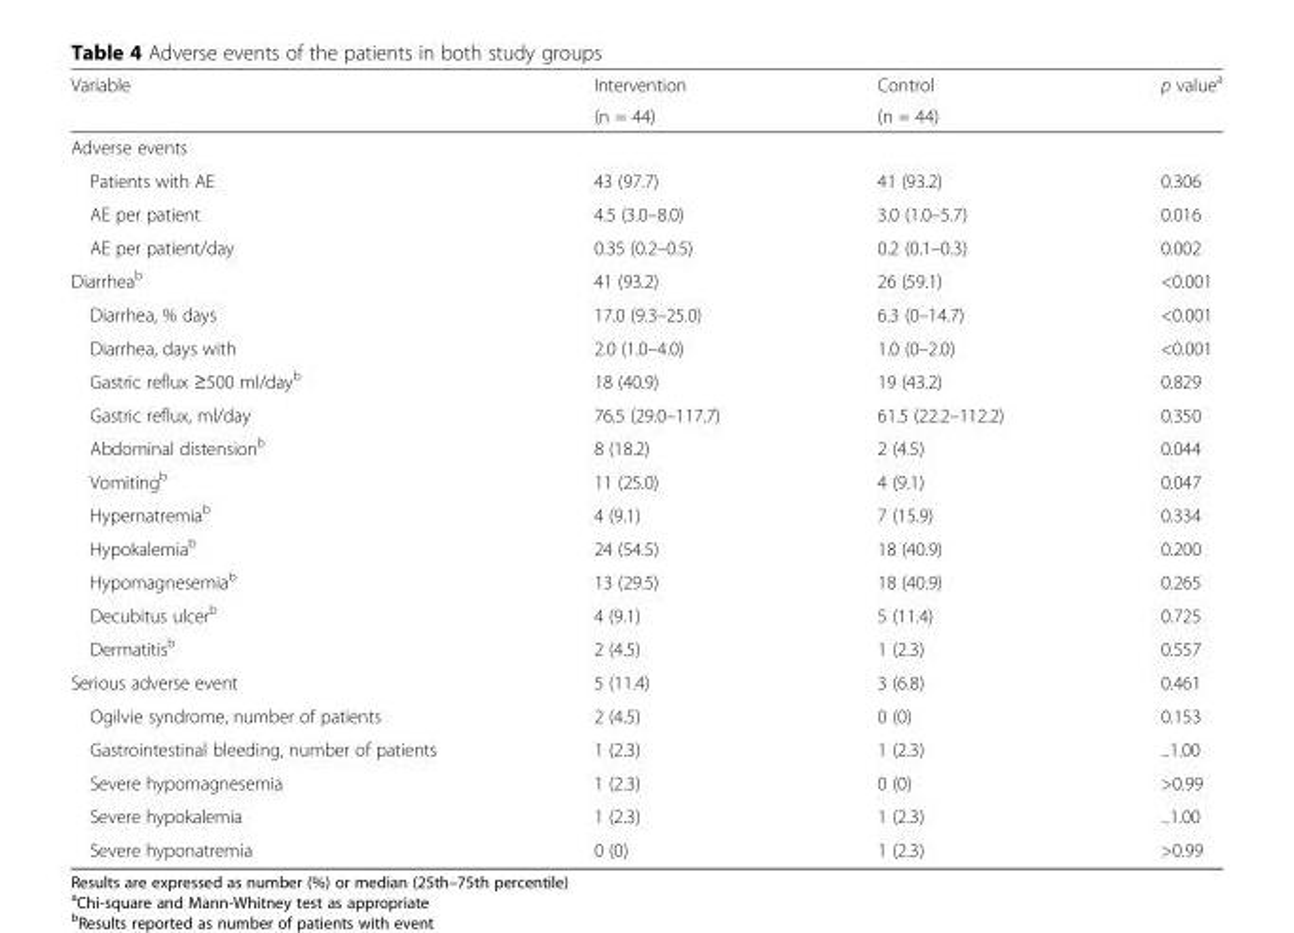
<table><thead><tr><td rowspan="2">Variable</td><td rowspan="2">Intervention (n = 44)</td><td rowspan="2">Control (n = 44)</td><td rowspan="2">p value<sup>a</sup></td></tr><tr></tr></thead><tbody><tr><td colspan="4">Adverse events</td></tr><tr><td>Patients with AE</td><td>43 (97.7)</td><td>41 (93.2)</td><td>0.306</td></tr><tr><td>AE per patient</td><td>4.5 (3.0–8.0)</td><td>3.0 (1.0–5.7)</td><td>0.016</td></tr><tr><td>AE per patient/day</td><td>0.35 (0.2–0.5)</td><td>0.2 (0.1–0.3)</td><td>0.002</td></tr><tr><td>Diarrhea<sup>b</sup></td><td>41 (93.2)</td><td>26 (59.1)</td><td>&lt;0.001</td></tr><tr><td>Diarrhea, % days</td><td>17.0 (9.3–25.0)</td><td>6.3 (0–14.7)</td><td>&lt;0.001</td></tr><tr><td>Diarrhea, days with</td><td>2.0 (1.0–4.0)</td><td>1.0 (0–2.0)</td><td>&lt;0.001</td></tr><tr><td>Gastric reflux ≥500 ml/day<sup>b</sup></td><td>18 (40.9)</td><td>19 (43.2)</td><td>0.829</td></tr><tr><td>Gastric reflux, ml/day</td><td>76.5 (29.0–117.7)</td><td>61.5 (22.2–112.2)</td><td>0.350</td></tr><tr><td>Abdominal distension<sup>b</sup></td><td>8 (18.2)</td><td>2 (4.5)</td><td>0.044</td></tr><tr><td>Vomiting<sup>b</sup></td><td>11 (25.0)</td><td>4 (9.1)</td><td>0.047</td></tr><tr><td>Hypernatremia<sup>b</sup></td><td>4 (9.1)</td><td>7 (15.9)</td><td>0.334</td></tr><tr><td>Hypokalemia<sup>b</sup></td><td>24 (54.5)</td><td>18 (40.9)</td><td>0.200</td></tr><tr><td>Hypomagnesemia<sup>b</sup></td><td>13 (29.5)</td><td>18 (40.9)</td><td>0.265</td></tr><tr><td>Decubitus ulcer<sup>b</sup></td><td>4 (9.1)</td><td>5 (11.4)</td><td>0.725</td></tr><tr><td>Dermatitis<sup>b</sup></td><td>2 (4.5)</td><td>1 (2.3)</td><td>0.557</td></tr><tr><td>Serious adverse event</td><td>5 (11.4)</td><td>3 (6.8)</td><td>0.461</td></tr><tr><td>Ogilvie syndrome, number of patients</td><td>2 (4.5)</td><td>0 (0)</td><td>0.153</td></tr><tr><td>Gastrointestinal bleeding, number of patients</td><td>1 (2.3)</td><td>1 (2.3)</td><td><sub>~</sub>1.00</td></tr><tr><td>Severe hypomagnesemia</td><td>1 (2.3)</td><td>0 (0)</td><td>&gt;0.99</td></tr><tr><td>Severe hypokalemia</td><td>1 (2.3)</td><td>1 (2.3)</td><td><sub>~</sub>1.00</td></tr><tr><td>Severe hyponatremia</td><td>0 (0)</td><td>1 (2.3)</td><td>&gt;0.99</td></tr></tbody></table>